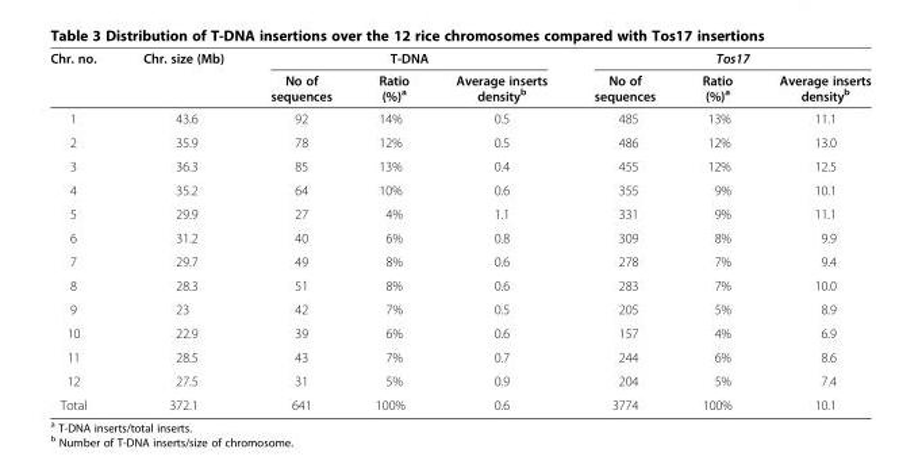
<table><thead><tr><td rowspan="2">Chr. no.</td><td rowspan="2">Chr. size (Mb)</td><td colspan="3">T-DNA</td><td colspan="3">Tos17</td></tr><tr><td>No of sequences</td><td>Ratio (%)<sup>a</sup></td><td>Average inserts density<sup>b</sup></td><td>No of sequences</td><td>Ratio (%)<sup>a</sup></td><td>Average inserts density<sup>b</sup></td></tr></thead><tbody><tr><td>1</td><td>43.6</td><td>92</td><td>14%</td><td>0.5</td><td>485</td><td>13%</td><td>11.1</td></tr><tr><td>2</td><td>35.9</td><td>78</td><td>12%</td><td>0.5</td><td>486</td><td>12%</td><td>13.0</td></tr><tr><td>3</td><td>36.3</td><td>85</td><td>13%</td><td>0.4</td><td>455</td><td>12%</td><td>12.5</td></tr><tr><td>4</td><td>35.2</td><td>64</td><td>10%</td><td>0.6</td><td>355</td><td>9%</td><td>10.1</td></tr><tr><td>5</td><td>29.9</td><td>27</td><td>4%</td><td>1.1</td><td>331</td><td>9%</td><td>11.1</td></tr><tr><td>6</td><td>31.2</td><td>40</td><td>6%</td><td>0.8</td><td>309</td><td>8%</td><td>9.9</td></tr><tr><td>7</td><td>29.7</td><td>49</td><td>8%</td><td>0.6</td><td>278</td><td>7%</td><td>9.4</td></tr><tr><td>8</td><td>28.3</td><td>51</td><td>8%</td><td>0.6</td><td>283</td><td>7%</td><td>10.0</td></tr><tr><td>9</td><td>23</td><td>42</td><td>7%</td><td>0.5</td><td>205</td><td>5%</td><td>8.9</td></tr><tr><td>10</td><td>22.9</td><td>39</td><td>6%</td><td>0.6</td><td>157</td><td>4%</td><td>6.9</td></tr><tr><td>11</td><td>28.5</td><td>43</td><td>7%</td><td>0.7</td><td>244</td><td>6%</td><td>8.6</td></tr><tr><td>12</td><td>27.5</td><td>31</td><td>5%</td><td>0.9</td><td>204</td><td>5%</td><td>7.4</td></tr><tr><td>Total</td><td>372.1</td><td>641</td><td>100%</td><td>0.6</td><td>3774</td><td>100%</td><td>10.1</td></tr></tbody></table>